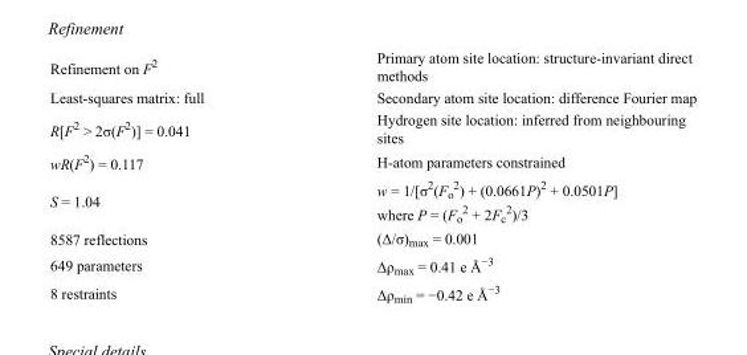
<table><tbody><tr><td>Refinement on F<sup>2</sup></td><td>Primary atom site location: structure-invariant direct methods</td></tr><tr><td>Least-squares matrix: full</td><td>Secondary atom site location: difference Fourier map</td></tr><tr><td>R[F<sup>2</sup> &gt; 2σ(F<sup>2</sup>)] = 0.041</td><td>Hydrogen site location: inferred from neighbouring sites</td></tr><tr><td>wR(F<sup>2</sup>) = 0.117</td><td>H-atom parameters constrained</td></tr><tr><td>S = 1.04</td><td>w = 1/[σ<sup>2</sup>(F<sub>o</sub> <sup>2</sup>) + (0.0661P)<sup>2</sup> + 0.0501P] where P = (F<sub>o</sub> <sup>2</sup> + 2F<sub>c</sub> <sup>2</sup>)/3</td></tr><tr><td>8587 reflections</td><td>(Δ/σ)<sub>max</sub> = 0.001</td></tr><tr><td>649 parameters</td><td>Δρ<sub>max</sub> = 0.41 e Å<sup>−3</sup></td></tr><tr><td>8 restraints</td><td>Δρ<sub>min</sub> = −0.42 e Å<sup>−3</sup></td></tr></tbody></table>